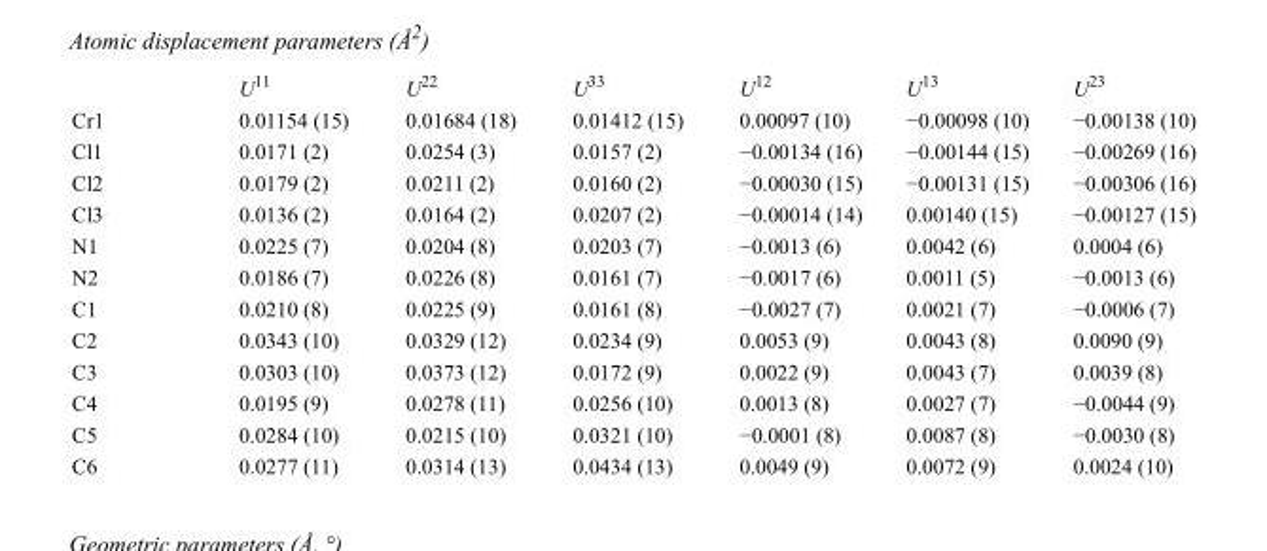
<table><thead><tr><td></td><td>U<sup>11</sup></td><td>U<sup>22</sup></td><td>U<sup>33</sup></td><td>U<sup>12</sup></td><td>U<sup>13</sup></td><td>U<sup>23</sup></td></tr></thead><tbody><tr><td>Cr1</td><td>0.01154 (15)</td><td>0.01684 (18)</td><td>0.01412 (15)</td><td>0.00097 (10)</td><td>−0.00098 (10)</td><td>−0.00138 (10)</td></tr><tr><td>Cl1</td><td>0.0171 (2)</td><td>0.0254 (3)</td><td>0.0157 (2)</td><td>−0.00134 (16)</td><td>−0.00144 (15)</td><td>−0.00269 (16)</td></tr><tr><td>Cl2</td><td>0.0179 (2)</td><td>0.0211 (2)</td><td>0.0160 (2)</td><td>−0.00030 (15)</td><td>−0.00131 (15)</td><td>−0.00306 (16)</td></tr><tr><td>Cl3</td><td>0.0136 (2)</td><td>0.0164 (2)</td><td>0.0207 (2)</td><td>−0.00014 (14)</td><td>0.00140 (15)</td><td>−0.00127 (15)</td></tr><tr><td>N1</td><td>0.0225 (7)</td><td>0.0204 (8)</td><td>0.0203 (7)</td><td>−0.0013 (6)</td><td>0.0042 (6)</td><td>0.0004 (6)</td></tr><tr><td>N2</td><td>0.0186 (7)</td><td>0.0226 (8)</td><td>0.0161 (7)</td><td>−0.0017 (6)</td><td>0.0011 (5)</td><td>−0.0013 (6)</td></tr><tr><td>C1</td><td>0.0210 (8)</td><td>0.0225 (9)</td><td>0.0161 (8)</td><td>−0.0027 (7)</td><td>0.0021 (7)</td><td>−0.0006 (7)</td></tr><tr><td>C2</td><td>0.0343 (10)</td><td>0.0329 (12)</td><td>0.0234 (9)</td><td>0.0053 (9)</td><td>0.0043 (8)</td><td>0.0090 (9)</td></tr><tr><td>C3</td><td>0.0303 (10)</td><td>0.0373 (12)</td><td>0.0172 (9)</td><td>0.0022 (9)</td><td>0.0043 (7)</td><td>0.0039 (8)</td></tr><tr><td>C4</td><td>0.0195 (9)</td><td>0.0278 (11)</td><td>0.0256 (10)</td><td>0.0013 (8)</td><td>0.0027 (7)</td><td>−0.0044 (9)</td></tr><tr><td>C5</td><td>0.0284 (10)</td><td>0.0215 (10)</td><td>0.0321 (10)</td><td>−0.0001 (8)</td><td>0.0087 (8)</td><td>−0.0030 (8)</td></tr><tr><td>C6</td><td>0.0277 (11)</td><td>0.0314 (13)</td><td>0.0434 (13)</td><td>0.0049 (9)</td><td>0.0072 (9)</td><td>0.0024 (10)</td></tr></tbody></table>